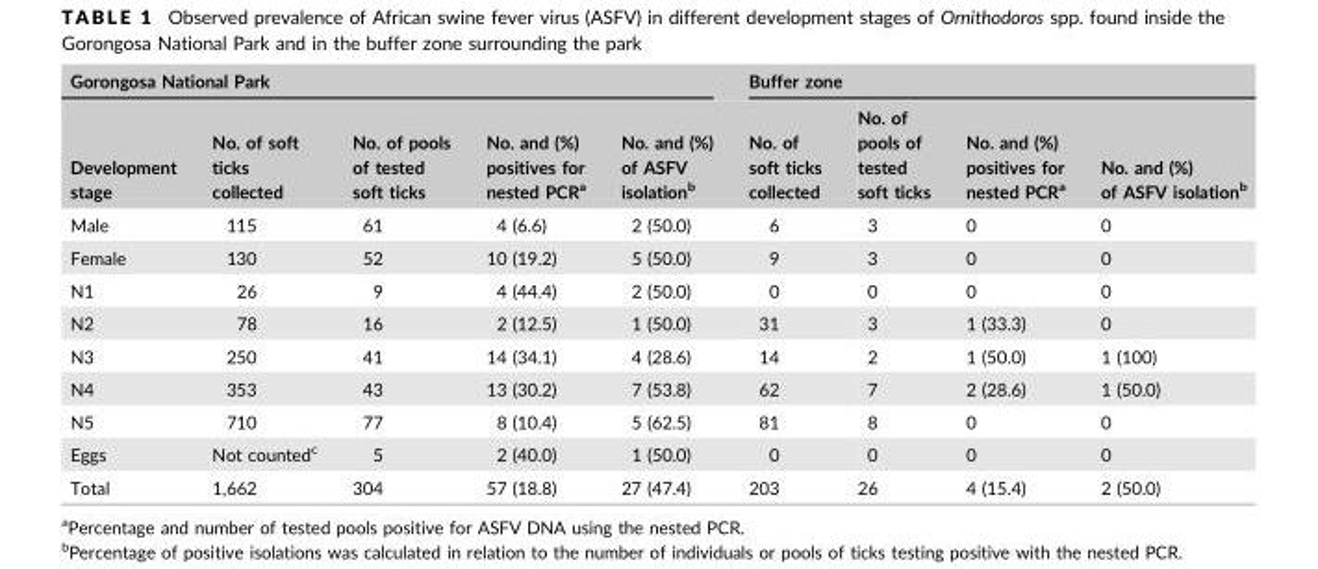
<table><thead><tr><td colspan="5">Gorongosa National Park</td><td colspan="4">Buffer zone</td></tr><tr><td>Development stage</td><td>No. of soft ticks collected</td><td>No. of pools of tested soft ticks</td><td>No. and (%) positives for nested PCR<sup>a</sup></td><td>No. and (%) of ASFV isolation<sup>b</sup></td><td>No. of soft ticks collected</td><td>No. of pools of tested soft ticks</td><td>No. and (%) positives for nested PCR<sup>a</sup></td><td>No. and (%) of ASFV isolation<sup>b</sup></td></tr></thead><tbody><tr><td>Male</td><td>115</td><td>61</td><td>4 (6.6)</td><td>2 (50.0)</td><td>6</td><td>3</td><td>0</td><td>0</td></tr><tr><td>Female</td><td>130</td><td>52</td><td>10 (19.2)</td><td>5 (50.0)</td><td>9</td><td>3</td><td>0</td><td>0</td></tr><tr><td>N1</td><td>26</td><td>9</td><td>4 (44.4)</td><td>2 (50.0)</td><td>0</td><td>0</td><td>0</td><td>0</td></tr><tr><td>N2</td><td>78</td><td>16</td><td>2 (12.5)</td><td>1 (50.0)</td><td>31</td><td>3</td><td>1 (33.3)</td><td>0</td></tr><tr><td>N3</td><td>250</td><td>41</td><td>14 (34.1)</td><td>4 (28.6)</td><td>14</td><td>2</td><td>1 (50.0)</td><td>1 (100)</td></tr><tr><td>N4</td><td>353</td><td>43</td><td>13 (30.2)</td><td>7 (53.8)</td><td>62</td><td>7</td><td>2 (28.6)</td><td>1 (50.0)</td></tr><tr><td>N5</td><td>710</td><td>77</td><td>8 (10.4)</td><td>5 (62.5)</td><td>81</td><td>8</td><td>0</td><td>0</td></tr><tr><td>Eggs</td><td>Not counted<sup>c</sup></td><td>5</td><td>2 (40.0)</td><td>1 (50.0)</td><td>0</td><td>0</td><td>0</td><td>0</td></tr><tr><td>Total</td><td>1,662</td><td>304</td><td>57 (18.8)</td><td>27 (47.4)</td><td>203</td><td>26</td><td>4 (15.4)</td><td>2 (50.0)</td></tr></tbody></table>